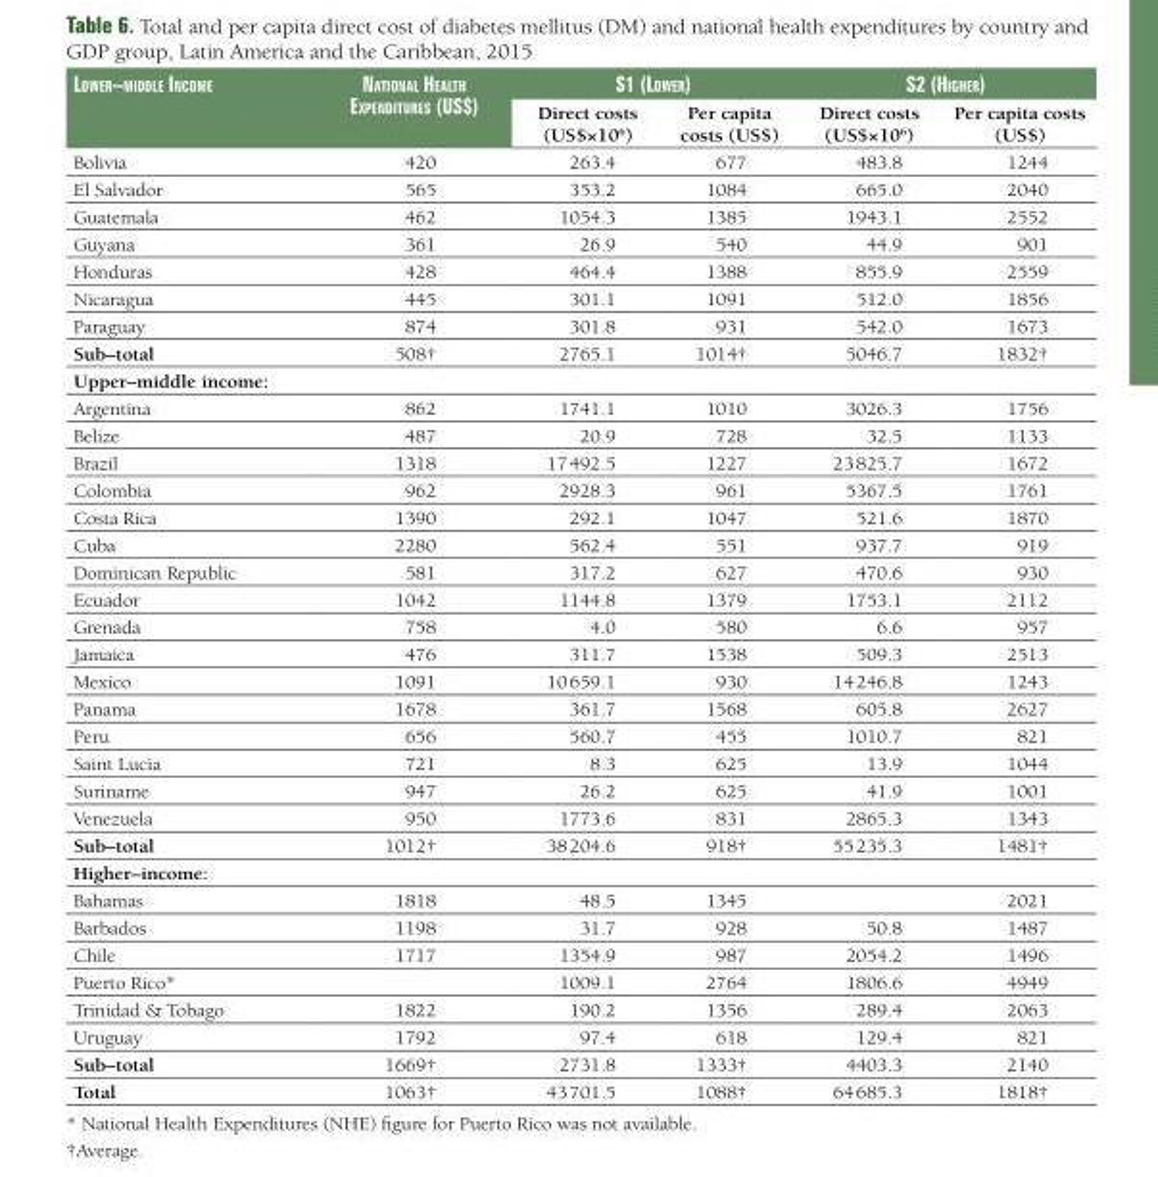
<table><thead><tr><td rowspan="2">Lower–mIddLe Income</td><td rowspan="2">natIonaL heaLth expendItures (us$)</td><td colspan="2">s1 (Lower)</td><td colspan="2">s2 (hIgher)</td></tr><tr><td>Direct costs (US$×10<sup>6</sup>)</td><td>Per capita costs (US$)</td><td>Direct costs (US$×10<sup>6</sup>)</td><td>Per capita costs (US$)</td></tr></thead><tbody><tr><td>Bolivia</td><td>420</td><td>263.4</td><td>677</td><td>483.8</td><td>1244</td></tr><tr><td>El Salvador</td><td>565</td><td>353.2</td><td>1084</td><td>665.0</td><td>2040</td></tr><tr><td>Guatemala</td><td>462</td><td>1054.3</td><td>1385</td><td>1943.1</td><td>2552</td></tr><tr><td>Guyana</td><td>361</td><td>26.9</td><td>540</td><td>44.9</td><td>901</td></tr><tr><td>Honduras</td><td>428</td><td>464.4</td><td>1388</td><td>855.9</td><td>2559</td></tr><tr><td>Nicaragua</td><td>445</td><td>301.1</td><td>1091</td><td>512.0</td><td>1856</td></tr><tr><td>Paraguay</td><td>874</td><td>301.8</td><td>931</td><td>542.0</td><td>1673</td></tr><tr><td>Sub–total</td><td>508†</td><td>2765.1</td><td>1014†</td><td>5046.7</td><td>1832†</td></tr><tr><td colspan="6">Upper–middle income:</td></tr><tr><td>Argentina</td><td>862</td><td>1741.1</td><td>1010</td><td>3026.3</td><td>1756</td></tr><tr><td>Belize</td><td>487</td><td>20.9</td><td>728</td><td>32.5</td><td>1133</td></tr><tr><td>Brazil</td><td>1318</td><td>17 492.5</td><td>1227</td><td>23 825.7</td><td>1672</td></tr><tr><td>Colombia</td><td>962</td><td>2928.3</td><td>961</td><td>5367.5</td><td>1761</td></tr><tr><td>Costa Rica</td><td>1390</td><td>292.1</td><td>1047</td><td>521.6</td><td>1870</td></tr><tr><td>Cuba</td><td>2280</td><td>562.4</td><td>551</td><td>937.7</td><td>919</td></tr><tr><td>Dominican Republic</td><td>581</td><td>317.2</td><td>627</td><td>470.6</td><td>930</td></tr><tr><td>Ecuador</td><td>1042</td><td>1144.8</td><td>1379</td><td>1753.1</td><td>2112</td></tr><tr><td>Grenada</td><td>758</td><td>4.0</td><td>580</td><td>6.6</td><td>957</td></tr><tr><td>Jamaica</td><td>476</td><td>311.7</td><td>1538</td><td>509.3</td><td>2513</td></tr><tr><td>Mexico</td><td>1091</td><td>10 659.1</td><td>930</td><td>14 246.8</td><td>1243</td></tr><tr><td>Panama</td><td>1678</td><td>361.7</td><td>1568</td><td>605.8</td><td>2627</td></tr><tr><td>Peru</td><td>656</td><td>560.7</td><td>455</td><td>1010.7</td><td>821</td></tr><tr><td>Saint Lucia</td><td>721</td><td>8.3</td><td>625</td><td>13.9</td><td>1044</td></tr><tr><td>Suriname</td><td>947</td><td>26.2</td><td>625</td><td>41.9</td><td>1001</td></tr><tr><td>Venezuela</td><td>950</td><td>1773.6</td><td>831</td><td>2865.3</td><td>1343</td></tr><tr><td>Sub–total</td><td>1012†</td><td>38 204.6</td><td>918†</td><td>55 235.3</td><td>1481†</td></tr><tr><td colspan="6">Higher–income:</td></tr><tr><td>Bahamas</td><td>1818</td><td>48.5</td><td>1345</td><td></td><td>2021</td></tr><tr><td>Barbados</td><td>1198</td><td>31.7</td><td>928</td><td>50.8</td><td>1487</td></tr><tr><td>Chile</td><td>1717</td><td>1354.9</td><td>987</td><td>2054.2</td><td>1496</td></tr><tr><td>Puerto Rico*</td><td></td><td>1009.1</td><td>2764</td><td>1806.6</td><td>4949</td></tr><tr><td>Trinidad &amp; Tobago</td><td>1822</td><td>190.2</td><td>1356</td><td>289.4</td><td>2063</td></tr><tr><td>Uruguay</td><td>1792</td><td>97.4</td><td>618</td><td>129.4</td><td>821</td></tr><tr><td>Sub–total</td><td>1669†</td><td>2731.8</td><td>1333†</td><td>4403.3</td><td>2140</td></tr><tr><td>Total</td><td>1063†</td><td>43 701.5</td><td>1088†</td><td>64 685.3</td><td>1818†</td></tr></tbody></table>